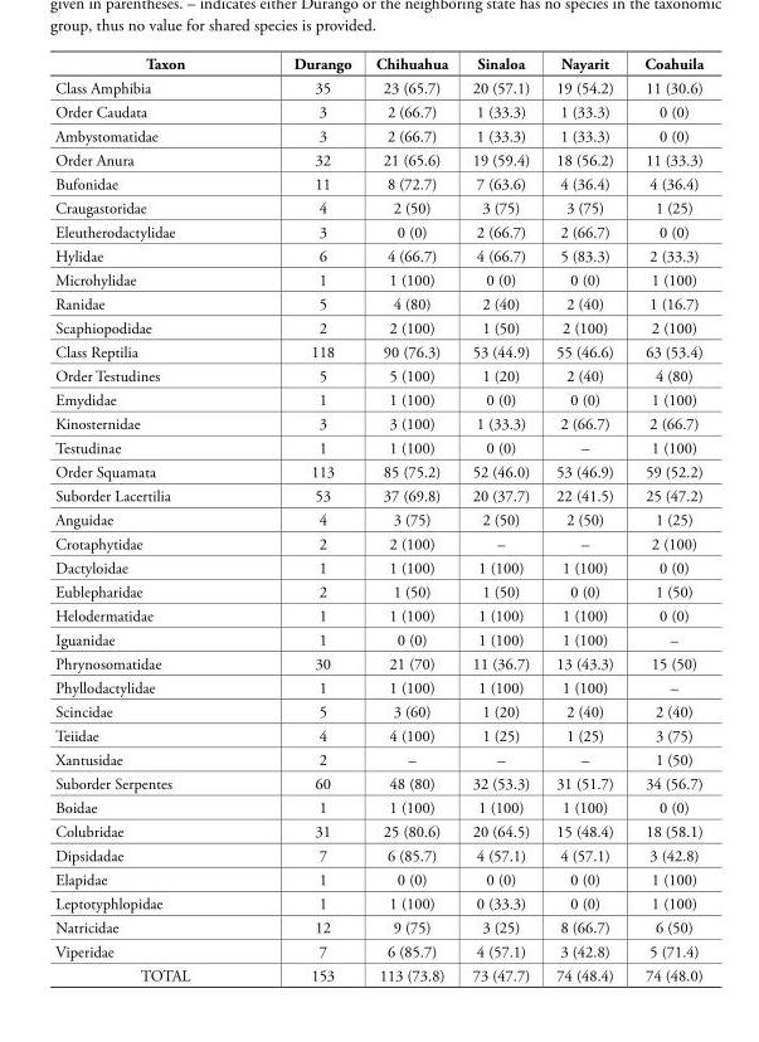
<table><thead><tr><td>Taxon</td><td>Durango</td><td>Chihuahua</td><td>Sinaloa</td><td>Nayarit</td><td>Coahuila</td></tr></thead><tbody><tr><td>Class Amphibia</td><td>35</td><td>23 (65.7)</td><td>20 (57.1)</td><td>19 (54.2)</td><td>11 (30.6)</td></tr><tr><td>Order Caudata</td><td>3</td><td>2 (66.7)</td><td>1 (33.3)</td><td>1 (33.3)</td><td>0 (0)</td></tr><tr><td>Ambystomatidae</td><td>3</td><td>2 (66.7)</td><td>1 (33.3)</td><td>1 (33.3)</td><td>0 (0)</td></tr><tr><td>Order Anura</td><td>32</td><td>21 (65.6)</td><td>19 (59.4)</td><td>18 (56.2)</td><td>11 (33.3)</td></tr><tr><td>Bufonidae</td><td>11</td><td>8 (72.7)</td><td>7 (63.6)</td><td>4 (36.4)</td><td>4 (36.4)</td></tr><tr><td>Craugastoridae</td><td>4</td><td>2 (50)</td><td>3 (75)</td><td>3 (75)</td><td>1 (25)</td></tr><tr><td>Eleutherodactylidae</td><td>3</td><td>0 (0)</td><td>2 (66.7)</td><td>2 (66.7)</td><td>0 (0)</td></tr><tr><td>Hylidae</td><td>6</td><td>4 (66.7)</td><td>4 (66.7)</td><td>5 (83.3)</td><td>2 (33.3)</td></tr><tr><td>Microhylidae</td><td>1</td><td>1 (100)</td><td>0 (0)</td><td>0 (0)</td><td>1 (100)</td></tr><tr><td>Ranidae</td><td>5</td><td>4 (80)</td><td>2 (40)</td><td>2 (40)</td><td>1 (16.7)</td></tr><tr><td>Scaphiopodidae</td><td>2</td><td>2 (100)</td><td>1 (50)</td><td>2 (100)</td><td>2 (100)</td></tr><tr><td>Class Reptilia</td><td>118</td><td>90 (76.3)</td><td>53 (44.9)</td><td>55 (46.6)</td><td>63 (53.4)</td></tr><tr><td>Order Testudines</td><td>5</td><td>5 (100)</td><td>1 (20)</td><td>2 (40)</td><td>4 (80)</td></tr><tr><td>Emydidae</td><td>1</td><td>1 (100)</td><td>0 (0)</td><td>0 (0)</td><td>1 (100)</td></tr><tr><td>Kinosternidae</td><td>3</td><td>3 (100)</td><td>1 (33.3)</td><td>2 (66.7)</td><td>2 (66.7)</td></tr><tr><td>Testudinae</td><td>1</td><td>1 (100)</td><td>0 (0)</td><td>–</td><td>1 (100)</td></tr><tr><td>Order Squamata</td><td>113</td><td>85 (75.2)</td><td>52 (46.0)</td><td>53 (46.9)</td><td>59 (52.2)</td></tr><tr><td>Suborder Lacertilia</td><td>53</td><td>37 (69.8)</td><td>20 (37.7)</td><td>22 (41.5)</td><td>25 (47.2)</td></tr><tr><td>Anguidae</td><td>4</td><td>3 (75)</td><td>2 (50)</td><td>2 (50)</td><td>1 (25)</td></tr><tr><td>Crotaphytidae</td><td>2</td><td>2 (100)</td><td>–</td><td>–</td><td>2 (100)</td></tr><tr><td>Dactyloidae</td><td>1</td><td>1 (100)</td><td>1 (100)</td><td>1 (100)</td><td>0 (0)</td></tr><tr><td>Eublepharidae</td><td>2</td><td>1 (50)</td><td>1 (50)</td><td>0 (0)</td><td>1 (50)</td></tr><tr><td>Helodermatidae</td><td>1</td><td>1 (100)</td><td>1 (100)</td><td>1 (100)</td><td>0 (0)</td></tr><tr><td>Iguanidae</td><td>1</td><td>0 (0)</td><td>1 (100)</td><td>1 (100)</td><td>–</td></tr><tr><td>Phrynosomatidae</td><td>30</td><td>21 (70)</td><td>11 (36.7)</td><td>13 (43.3)</td><td>15 (50)</td></tr><tr><td>Phyllodactylidae</td><td>1</td><td>1 (100)</td><td>1 (100)</td><td>1 (100)</td><td>–</td></tr><tr><td>Scincidae</td><td>5</td><td>3 (60)</td><td>1 (20)</td><td>2 (40)</td><td>2 (40)</td></tr><tr><td>Teiidae</td><td>4</td><td>4 (100)</td><td>1 (25)</td><td>1 (25)</td><td>3 (75)</td></tr><tr><td>Xantusidae</td><td>2</td><td>–</td><td>–</td><td>–</td><td>1 (50)</td></tr><tr><td>Suborder Serpentes</td><td>60</td><td>48 (80)</td><td>32 (53.3)</td><td>31 (51.7)</td><td>34 (56.7)</td></tr><tr><td>Boidae</td><td>1</td><td>1 (100)</td><td>1 (100)</td><td>1 (100)</td><td>0 (0)</td></tr><tr><td>Colubridae</td><td>31</td><td>25 (80.6)</td><td>20 (64.5)</td><td>15 (48.4)</td><td>18 (58.1)</td></tr><tr><td>Dipsidadae</td><td>7</td><td>6 (85.7)</td><td>4 (57.1)</td><td>4 (57.1)</td><td>3 (42.8)</td></tr><tr><td>Elapidae</td><td>1</td><td>0 (0)</td><td>0 (0)</td><td>0 (0)</td><td>1 (100)</td></tr><tr><td>Leptotyphlopidae</td><td>1</td><td>1 (100)</td><td>0 (33.3)</td><td>0 (0)</td><td>1 (100)</td></tr><tr><td>Natricidae</td><td>12</td><td>9 (75)</td><td>3 (25)</td><td>8 (66.7)</td><td>6 (50)</td></tr><tr><td>Viperidae</td><td>7</td><td>6 (85.7)</td><td>4 (57.1)</td><td>3 (42.8)</td><td>5 (71.4)</td></tr><tr><td>TOTAL</td><td>153</td><td>113 (73.8)</td><td>73 (47.7)</td><td>74 (48.4)</td><td>74 (48.0)</td></tr></tbody></table>